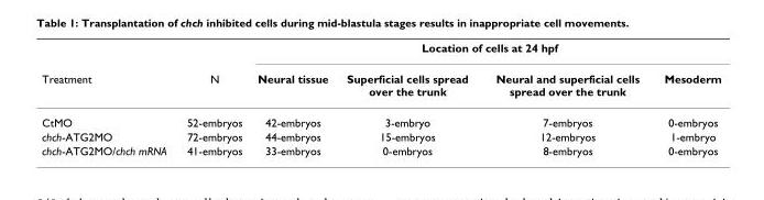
<table><thead><tr><td rowspan="2">Treatment</td><td rowspan="2">N</td><td colspan="4">Location of cells at 24 hpf</td></tr><tr><td>Neural tissue</td><td>Superficial cells spread over the trunk</td><td>Neural and superficial cells spread over the trunk</td><td>Mesoderm</td></tr></thead><tbody><tr><td>CtMO</td><td>52-embryos</td><td>42-embryos</td><td>3-embryo</td><td>7-embryos</td><td>0-embryos</td></tr><tr><td>chch-ATG2MO</td><td>72-embryos</td><td>44-embryos</td><td>15-embryos</td><td>12-embryos</td><td>1-embryo</td></tr><tr><td>chch-ATG2MO/chch mRNA</td><td>41-embryos</td><td>33-embryos</td><td>0-embryos</td><td>8-embryos</td><td>0-embryos</td></tr></tbody></table>